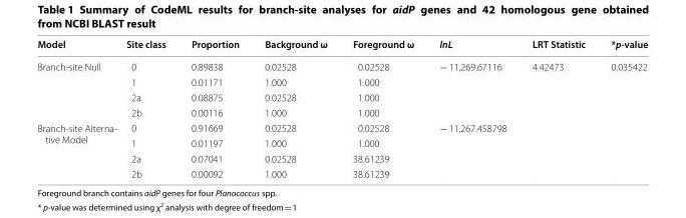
<table><thead><tr><td>Model</td><td>Site class</td><td>Proportion</td><td>Background ω</td><td>Foreground ω</td><td>lnL</td><td>LRT Statistic</td><td>*p‑value</td></tr></thead><tbody><tr><td rowspan="4">Branch‑site Null</td><td>0</td><td>0.89838</td><td>0.02528</td><td>0.02528</td><td rowspan="4">− 11,269.67116</td><td rowspan="8">4.42473</td><td rowspan="8">0.035422</td></tr><tr><td>1</td><td>0.01171</td><td>1.000</td><td>1.000</td></tr><tr><td>2a</td><td>0.08875</td><td>0.02528</td><td>1.000</td></tr><tr><td>2b</td><td>0.00116</td><td>1.000</td><td>1.000</td></tr><tr><td rowspan="4">Branch‑site Alterna‑ tive Model</td><td>0</td><td>0.91669</td><td>0.02528</td><td>0.02528</td><td rowspan="4">− 11,267.458798</td></tr><tr><td>1</td><td>0.01197</td><td>1.000</td><td>1.000</td></tr><tr><td>2a</td><td>0.07041</td><td>0.02528</td><td>38.61239</td></tr><tr><td>2b</td><td>0.00092</td><td>1.000</td><td>38.61239</td></tr></tbody></table>